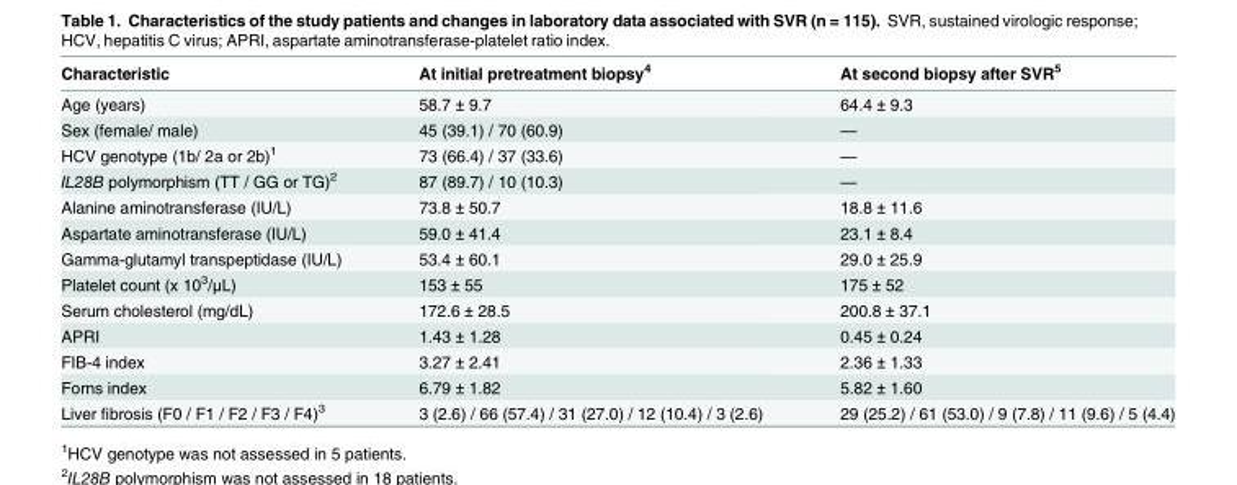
<table><thead><tr><td>Characteristic</td><td>At initial pretreatment biopsy<sup>4</sup></td><td>At second biopsy after SVR<sup>5</sup></td></tr></thead><tbody><tr><td>Age (years)</td><td>58.7 ± 9.7</td><td>64.4 ± 9.3</td></tr><tr><td>Sex (female/ male)</td><td>45 (39.1) / 70 (60.9)</td><td>—</td></tr><tr><td>HCV genotype (1b/ 2a or 2b)<sup>1</sup></td><td>73 (66.4) / 37 (33.6)</td><td>—</td></tr><tr><td>IL28B polymorphism (TT / GG or TG)<sup>2</sup></td><td>87 (89.7) / 10 (10.3)</td><td>—</td></tr><tr><td>Alanine aminotransferase (IU/L)</td><td>73.8 ± 50.7</td><td>18.8 ± 11.6</td></tr><tr><td>Aspartate aminotransferase (IU/L)</td><td>59.0 ± 41.4</td><td>23.1 ± 8.4</td></tr><tr><td>Gamma-glutamyl transpeptidase (IU/L)</td><td>53.4 ± 60.1</td><td>29.0 ± 25.9</td></tr><tr><td>Platelet count (x 10<sup>3</sup>/μL)</td><td>153 ± 55</td><td>175 ± 52</td></tr><tr><td>Serum cholesterol (mg/dL)</td><td>172.6 ± 28.5</td><td>200.8 ± 37.1</td></tr><tr><td>APRI</td><td>1.43 ± 1.28</td><td>0.45 ± 0.24</td></tr><tr><td>FIB-4 index</td><td>3.27 ± 2.41</td><td>2.36 ± 1.33</td></tr><tr><td>Forns index</td><td>6.79 ± 1.82</td><td>5.82 ± 1.60</td></tr><tr><td>Liver fibrosis (F0 / F1 / F2 / F3 / F4)<sup>3</sup></td><td>3 (2.6) / 66 (57.4) / 31 (27.0) / 12 (10.4) / 3 (2.6)</td><td>29 (25.2) / 61 (53.0) / 9 (7.8) / 11 (9.6) / 5 (4.4)</td></tr></tbody></table>